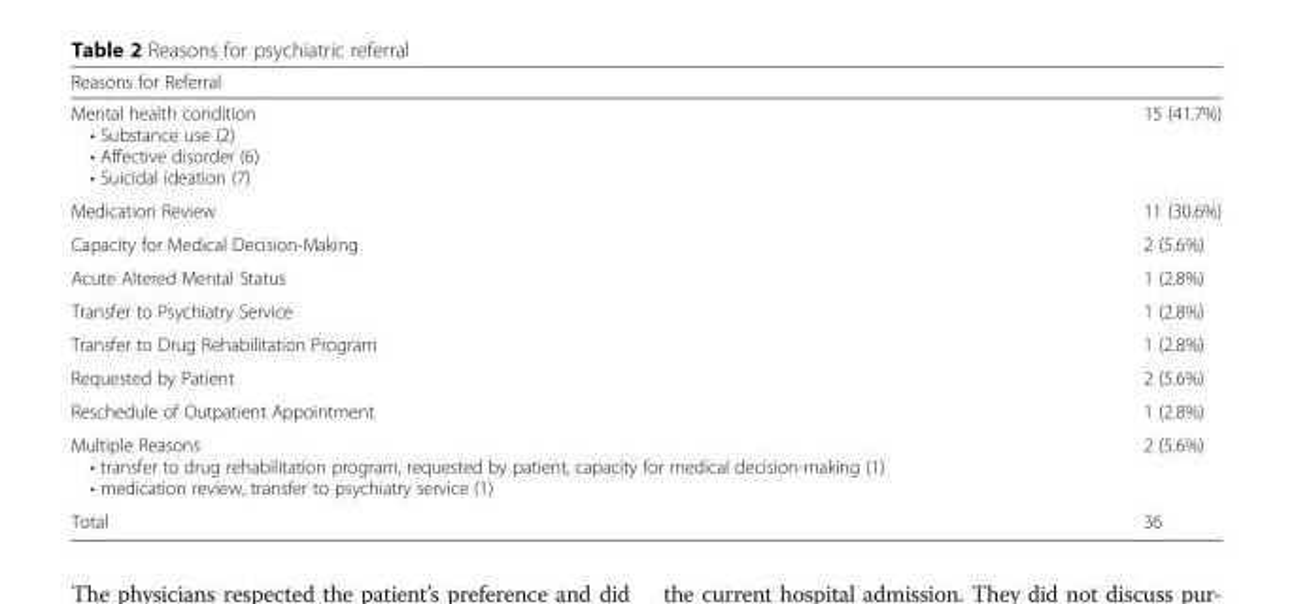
<table><thead><tr><td>Reasons for Referral</td><td></td></tr></thead><tbody><tr><td>Mental health condition • Substance use (2) • Affective disorder (6) • Suicidal ideation (7)</td><td>15 (41.7%)</td></tr><tr><td>Medication Review</td><td>11 (30.6%)</td></tr><tr><td>Capacity for Medical Decision-Making</td><td>2 (5.6%)</td></tr><tr><td>Acute Altered Mental Status</td><td>1 (2.8%)</td></tr><tr><td>Transfer to Psychiatry Service</td><td>1 (2.8%)</td></tr><tr><td>Transfer to Drug Rehabilitation Program</td><td>1 (2.8%)</td></tr><tr><td>Requested by Patient</td><td>2 (5.6%)</td></tr><tr><td>Reschedule of Outpatient Appointment</td><td>1 (2.8%)</td></tr><tr><td>Multiple Reasons • transfer to drug rehabilitation program, requested by patient, capacity for medical decision-making (1) • medication review, transfer to psychiatry service (1)</td><td>2 (5.6%)</td></tr><tr><td>Total</td><td>36</td></tr></tbody></table>